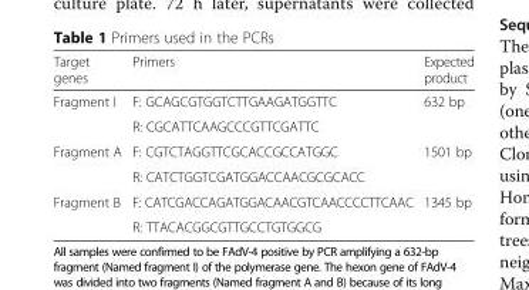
<table><thead><tr><td>Target genes</td><td>Primers</td><td>Expected product</td></tr></thead><tbody><tr><td rowspan="2">Fragment I</td><td>F: GCAGCGTGGTCTTGAAGATGGTTC</td><td rowspan="2">632 bp</td></tr><tr><td>R: CGCATTCAAGCCCGTTCGATTC</td></tr><tr><td rowspan="2">Fragment A</td><td>F: CGTCTAGGTTCGCACCGCCATGGC</td><td rowspan="2">1501 bp</td></tr><tr><td>R: CATCTGGTCGATGGACCAACGCGCACC</td></tr><tr><td rowspan="2">Fragment B</td><td>F: CATCGACCAGATGGACAACGTCAACCCCTTCAAC</td><td rowspan="2">1345 bp</td></tr><tr><td>R: TTACACGGCGTTGCCTGTGGCG</td></tr></tbody></table>